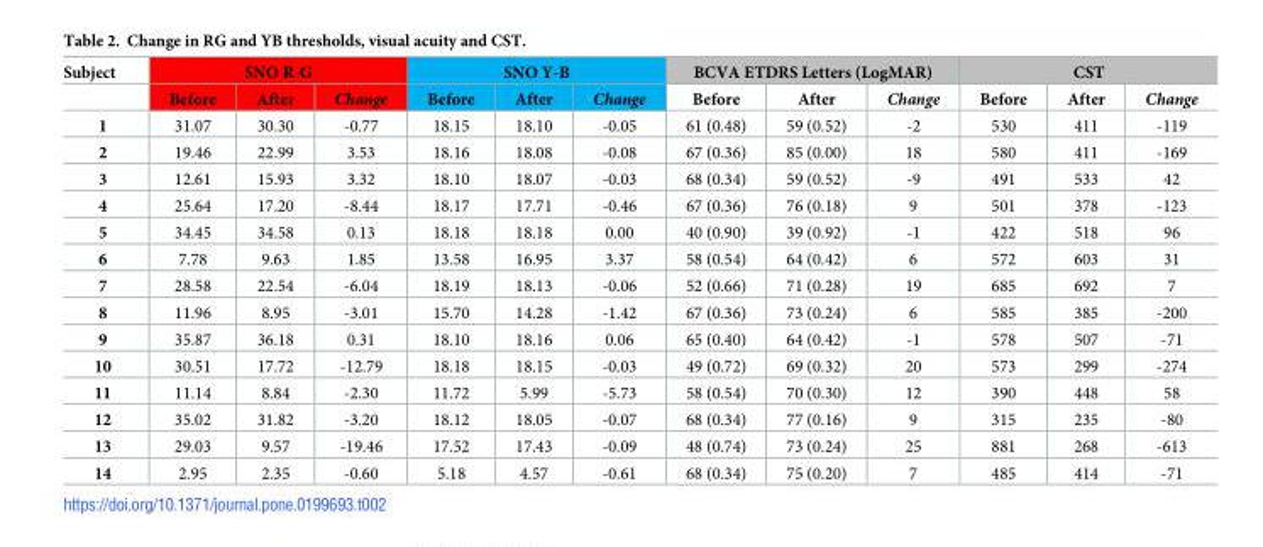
<table><thead><tr><td rowspan="2">Subject</td><td colspan="3">SNO R-G</td><td colspan="3">SNO Y-B</td><td colspan="3">BCVA ETDRS Letters (LogMAR)</td><td colspan="3">CST</td></tr><tr><td>Before</td><td>After</td><td>Change</td><td>Before</td><td>After</td><td>Change</td><td>Before</td><td>After</td><td>Change</td><td>Before</td><td>After</td><td>Change</td></tr></thead><tbody><tr><td>1</td><td>31.07</td><td>30.30</td><td>-0.77</td><td>18.15</td><td>18.10</td><td>-0.05</td><td>61 (0.48)</td><td>59 (0.52)</td><td>-2</td><td>530</td><td>411</td><td>-119</td></tr><tr><td>2</td><td>19.46</td><td>22.99</td><td>3.53</td><td>18.16</td><td>18.08</td><td>-0.08</td><td>67 (0.36)</td><td>85 (0.00)</td><td>18</td><td>580</td><td>411</td><td>-169</td></tr><tr><td>3</td><td>12.61</td><td>15.93</td><td>3.32</td><td>18.10</td><td>18.07</td><td>-0.03</td><td>68 (0.34)</td><td>59 (0.52)</td><td>-9</td><td>491</td><td>533</td><td>42</td></tr><tr><td>4</td><td>25.64</td><td>17.20</td><td>-8.44</td><td>18.17</td><td>17.71</td><td>-0.46</td><td>67 (0.36)</td><td>76 (0.18)</td><td>9</td><td>501</td><td>378</td><td>-123</td></tr><tr><td>5</td><td>34.45</td><td>34.58</td><td>0.13</td><td>18.18</td><td>18.18</td><td>0.00</td><td>40 (0.90)</td><td>39 (0.92)</td><td>-1</td><td>422</td><td>518</td><td>96</td></tr><tr><td>6</td><td>7.78</td><td>9.63</td><td>1.85</td><td>13.58</td><td>16.95</td><td>3.37</td><td>58 (0.54)</td><td>64 (0.42)</td><td>6</td><td>572</td><td>603</td><td>31</td></tr><tr><td>7</td><td>28.58</td><td>22.54</td><td>-6.04</td><td>18.19</td><td>18.13</td><td>-0.06</td><td>52 (0.66)</td><td>71 (0.28)</td><td>19</td><td>685</td><td>692</td><td>7</td></tr><tr><td>8</td><td>11.96</td><td>8.95</td><td>-3.01</td><td>15.70</td><td>14.28</td><td>-1.42</td><td>67 (0.36)</td><td>73 (0.24)</td><td>6</td><td>585</td><td>385</td><td>-200</td></tr><tr><td>9</td><td>35.87</td><td>36.18</td><td>0.31</td><td>18.10</td><td>18.16</td><td>0.06</td><td>65 (0.40)</td><td>64 (0.42)</td><td>-1</td><td>578</td><td>507</td><td>-71</td></tr><tr><td>10</td><td>30.51</td><td>17.72</td><td>-12.79</td><td>18.18</td><td>18.15</td><td>-0.03</td><td>49 (0.72)</td><td>69 (0.32)</td><td>20</td><td>573</td><td>299</td><td>-274</td></tr><tr><td>11</td><td>11.14</td><td>8.84</td><td>-2.30</td><td>11.72</td><td>5.99</td><td>-5.73</td><td>58 (0.54)</td><td>70 (0.30)</td><td>12</td><td>390</td><td>448</td><td>58</td></tr><tr><td>12</td><td>35.02</td><td>31.82</td><td>-3.20</td><td>18.12</td><td>18.05</td><td>-0.07</td><td>68 (0.34)</td><td>77 (0.16)</td><td>9</td><td>315</td><td>235</td><td>-80</td></tr><tr><td>13</td><td>29.03</td><td>9.57</td><td>-19.46</td><td>17.52</td><td>17.43</td><td>-0.09</td><td>48 (0.74)</td><td>73 (0.24)</td><td>25</td><td>881</td><td>268</td><td>-613</td></tr><tr><td>14</td><td>2.95</td><td>2.35</td><td>-0.60</td><td>5.18</td><td>4.57</td><td>-0.61</td><td>68 (0.34)</td><td>75 (0.20)</td><td>7</td><td>485</td><td>414</td><td>-71</td></tr></tbody></table>